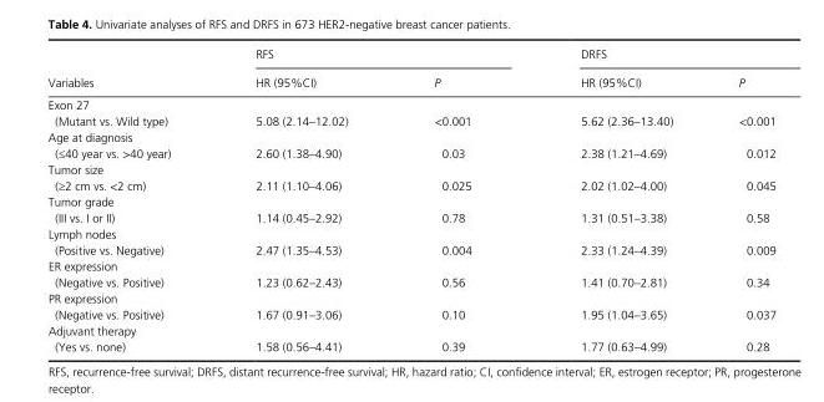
<table><thead><tr><td rowspan="2">Variables</td><td colspan="2">RFS</td><td colspan="2">DRFS</td></tr><tr><td>HR (95%CI)</td><td>P</td><td>HR (95%CI)</td><td>P</td></tr></thead><tbody><tr><td colspan="5">Exon 27</td></tr><tr><td>(Mutant vs. Wild type)</td><td>5.08 (2.14–12.02)</td><td>&lt;0.001</td><td>5.62 (2.36–13.40)</td><td>&lt;0.001</td></tr><tr><td colspan="5">Age at diagnosis</td></tr><tr><td>(≤40 year vs. &gt;40 year)</td><td>2.60 (1.38–4.90)</td><td>0.03</td><td>2.38 (1.21–4.69)</td><td>0.012</td></tr><tr><td colspan="5">Tumor size</td></tr><tr><td>(≥2 cm vs. &lt;2 cm)</td><td>2.11 (1.10–4.06)</td><td>0.025</td><td>2.02 (1.02–4.00)</td><td>0.045</td></tr><tr><td colspan="5">Tumor grade</td></tr><tr><td>(III vs. I or II)</td><td>1.14 (0.45–2.92)</td><td>0.78</td><td>1.31 (0.51–3.38)</td><td>0.58</td></tr><tr><td colspan="5">Lymph nodes</td></tr><tr><td>(Positive vs. Negative)</td><td>2.47 (1.35–4.53)</td><td>0.004</td><td>2.33 (1.24–4.39)</td><td>0.009</td></tr><tr><td colspan="5">ER expression</td></tr><tr><td>(Negative vs. Positive)</td><td>1.23 (0.62–2.43)</td><td>0.56</td><td>1.41 (0.70–2.81)</td><td>0.34</td></tr><tr><td colspan="5">PR expression</td></tr><tr><td>(Negative vs. Positive)</td><td>1.67 (0.91–3.06)</td><td>0.10</td><td>1.95 (1.04–3.65)</td><td>0.037</td></tr><tr><td colspan="5">Adjuvant therapy</td></tr><tr><td>(Yes vs. none)</td><td>1.58 (0.56–4.41)</td><td>0.39</td><td>1.77 (0.63–4.99)</td><td>0.28</td></tr></tbody></table>